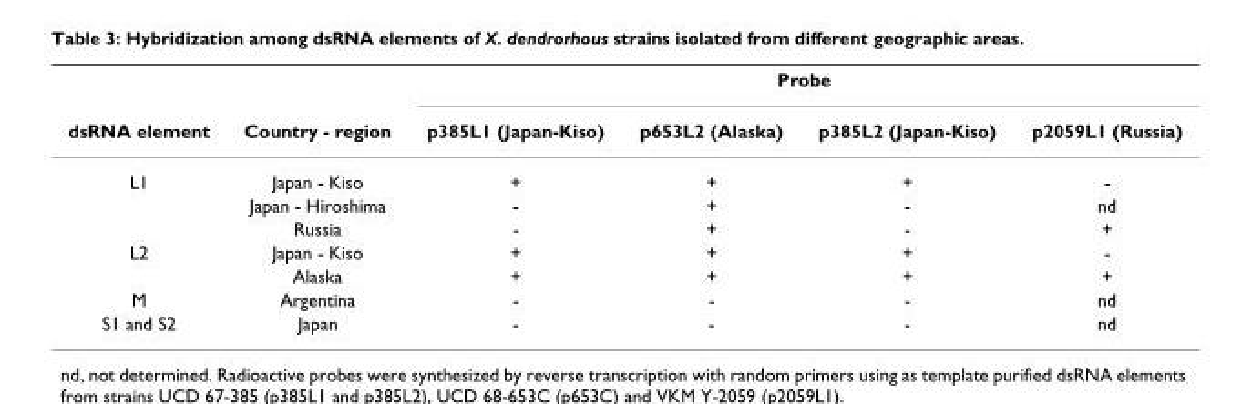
<table><thead><tr><td rowspan="2">dsRNA element</td><td rowspan="2">Country - region</td><td colspan="4">Probe</td></tr><tr><td>p385L1 (Japan-Kiso)</td><td>p653L2 (Alaska)</td><td>p385L2 (Japan-Kiso)</td><td>p2059L1 (Russia)</td></tr></thead><tbody><tr><td rowspan="3">L1</td><td>Japan - Kiso</td><td>+</td><td>+</td><td>+</td><td>-</td></tr><tr><td>Japan - Hiroshima</td><td>-</td><td>+</td><td>-</td><td>nd</td></tr><tr><td>Russia</td><td>-</td><td>+</td><td>-</td><td>+</td></tr><tr><td rowspan="2">L2</td><td>Japan - Kiso</td><td>+</td><td>+</td><td>+</td><td>-</td></tr><tr><td>Alaska</td><td>+</td><td>+</td><td>+</td><td>+</td></tr><tr><td>M</td><td>Argentina</td><td>-</td><td>-</td><td>-</td><td>nd</td></tr><tr><td>S1 and S2</td><td>Japan</td><td>-</td><td>-</td><td>-</td><td>nd</td></tr></tbody></table>